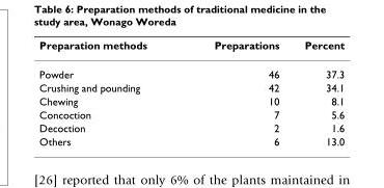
<table><thead><tr><td>Preparation methods</td><td>Preparations</td><td>Percent</td></tr></thead><tbody><tr><td>Powder</td><td>46</td><td>37.3</td></tr><tr><td>Crushing and pounding</td><td>42</td><td>34.1</td></tr><tr><td>Chewing</td><td>10</td><td>8.1</td></tr><tr><td>Concoction</td><td>7</td><td>5.6</td></tr><tr><td>Decoction</td><td>2</td><td>1.6</td></tr><tr><td>Others</td><td>6</td><td>13.0</td></tr></tbody></table>